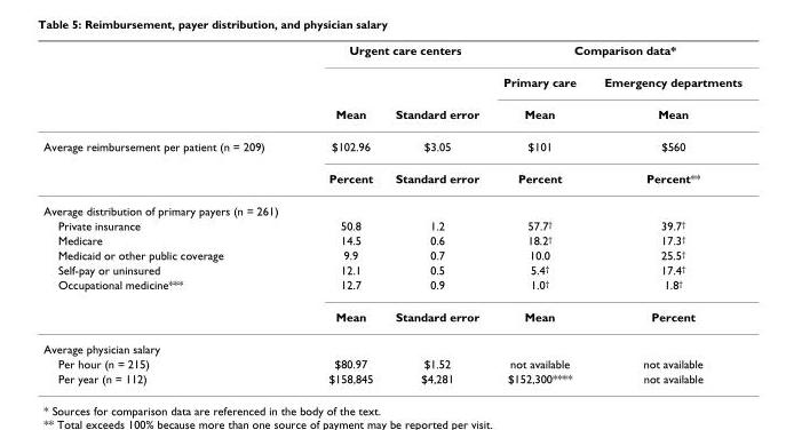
<table><thead><tr><td rowspan="3"></td><td colspan="2">Urgent care centers</td><td colspan="2">Comparison data*</td></tr><tr><td rowspan="2">Mean</td><td rowspan="2">Standard error</td><td rowspan="2">Primary care Mean</td><td rowspan="2">Emergency departments Mean</td></tr><tr></tr></thead><tbody><tr><td rowspan="2">Average reimbursement per patient (n = 209)</td><td>$102.96</td><td>$3.05</td><td>$101</td><td>$560</td></tr><tr><td>Percent</td><td>Standard error</td><td>Percent</td><td>Percent**</td></tr><tr><td colspan="5">Average distribution of primary payers (n = 261)</td></tr><tr><td>Private insurance</td><td>50.8</td><td>1.2</td><td>57.7<sup>†</sup></td><td>39.7<sup>†</sup></td></tr><tr><td>Medicare</td><td>14.5</td><td>0.6</td><td>18.2<sup>†</sup></td><td>17.3<sup>†</sup></td></tr><tr><td>Medicaid or other public coverage</td><td>9.9</td><td>0.7</td><td>10.0</td><td>25.5<sup>†</sup></td></tr><tr><td>Self-pay or uninsured</td><td>12.1</td><td>0.5</td><td>5.4<sup>†</sup></td><td>17.4<sup>†</sup></td></tr><tr><td rowspan="2">Occupational medicine***</td><td>12.7</td><td>0.9</td><td>1.0<sup>†</sup></td><td>1.8<sup>†</sup></td></tr><tr><td>Mean</td><td>Standard error</td><td>Mean</td><td>Percent</td></tr><tr><td colspan="5">Average physician salary</td></tr><tr><td>Per hour (n = 215)</td><td>$80.97</td><td>$1.52</td><td>not available</td><td>not available</td></tr><tr><td>Per year (n = 112)</td><td>$158,845</td><td>$4,281</td><td>$152,300****</td><td>not available</td></tr></tbody></table>